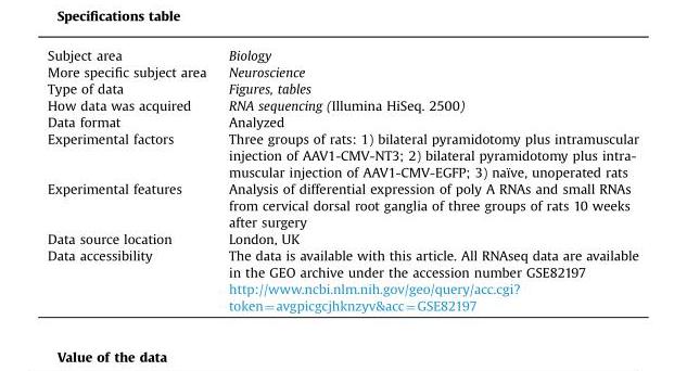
<table><tbody><tr><td>Subject area</td><td>Biology</td></tr><tr><td>More specific subject area</td><td>Neuroscience</td></tr><tr><td>Type of data</td><td>Figures, tables</td></tr><tr><td>How data was acquired</td><td>RNA sequencing (Illumina HiSeq. 2500)</td></tr><tr><td>Data format</td><td>Analyzed</td></tr><tr><td>Experimental factors</td><td>Three groups of rats: 1) bilateral pyramidotomy plus intramuscular injection of AAV1-CMV-NT3; 2) bilateral pyramidotomy plus intra- muscular injection of AAV1-CMV-EGFP; 3) naïve, unoperated rats</td></tr><tr><td>Experimental features</td><td>Analysis of differential expression of poly A RNAs and small RNAs from cervical dorsal root ganglia of three groups of rats 10 weeks after surgery</td></tr><tr><td>Data source location</td><td>London, UK</td></tr><tr><td rowspan="2">Data accessibility</td><td>The data is available with this article. All RNAseq data are available in the GEO archive under the accession number GSE82197</td></tr><tr><td>http://www.ncbi.nlm.nih.gov/geo/query/acc.cgi? token=avgpicgcjhknzyv&amp;acc=GSE82197</td></tr></tbody></table>